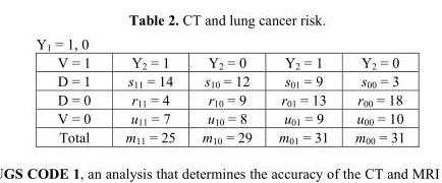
<table><tbody><tr><td colspan="5">Y<sub>1</sub> = 1, 0</td></tr><tr><td>V = 1</td><td>Y<sub>2</sub> = 1</td><td>Y<sub>2</sub> = 0</td><td>Y<sub>2</sub> = 1</td><td>Y<sub>2</sub> = 0</td></tr><tr><td>D = 1</td><td>s<sub>11</sub> = 14</td><td>s<sub>10</sub> = 12</td><td>s<sub>01</sub> = 9</td><td>s<sub>00</sub> = 3</td></tr><tr><td>D = 0</td><td>r<sub>11</sub> = 4</td><td>r<sub>10</sub> = 9</td><td>r<sub>01</sub> = 13</td><td>r<sub>00</sub> = 18</td></tr><tr><td>V = 0</td><td>u<sub>11</sub> = 7</td><td>u<sub>10</sub> = 8</td><td>u<sub>01</sub> = 9</td><td>u<sub>00</sub> = 10</td></tr><tr><td>Total</td><td>m<sub>11</sub> = 25</td><td>m<sub>10</sub> = 29</td><td>m<sub>01</sub> = 31</td><td>m<sub>00</sub> = 31</td></tr></tbody></table>